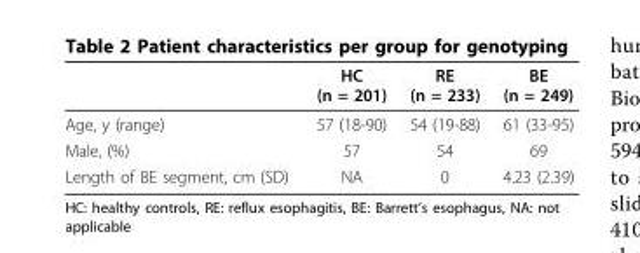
<table><thead><tr><td></td><td>HC (n = 201)</td><td>RE (n = 233)</td><td>BE (n = 249)</td></tr></thead><tbody><tr><td>Age, y (range)</td><td>57 (18-90)</td><td>54 (19-88)</td><td>61 (33-95)</td></tr><tr><td>Male, (%)</td><td>57</td><td>54</td><td>69</td></tr><tr><td>Length of BE segment, cm (SD)</td><td>NA</td><td>0</td><td>4.23 (2.39)</td></tr></tbody></table>